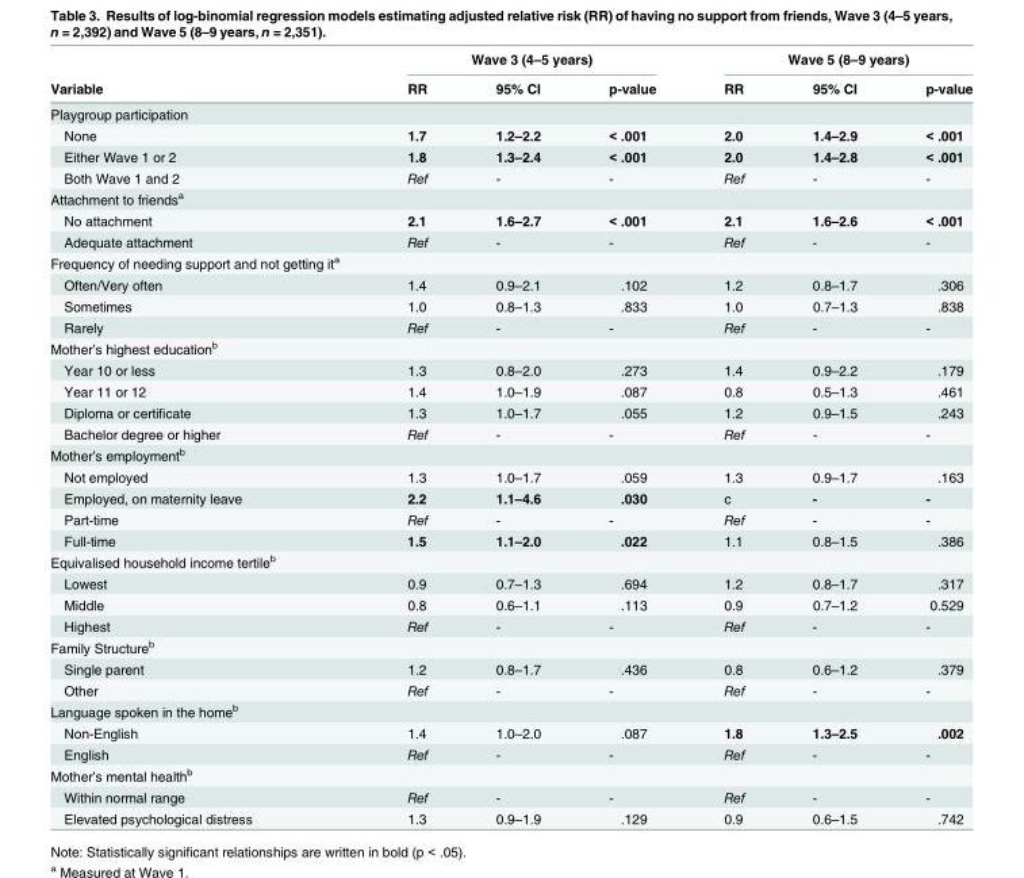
<table><thead><tr><td rowspan="2">Variable</td><td colspan="3">Wave 3 (4–5 years)</td><td colspan="3">Wave 5 (8–9 years)</td></tr><tr><td>RR</td><td>95% CI</td><td>p-value</td><td>RR</td><td>95% CI</td><td>p-value</td></tr></thead><tbody><tr><td colspan="7">Playgroup participation</td></tr><tr><td>None</td><td>1.7</td><td>1.2–2.2</td><td>&lt; .001</td><td>2.0</td><td>1.4–2.9</td><td>&lt; .001</td></tr><tr><td>Either Wave 1 or 2</td><td>1.8</td><td>1.3–2.4</td><td>&lt; .001</td><td>2.0</td><td>1.4–2.8</td><td>&lt; .001</td></tr><tr><td>Both Wave 1 and 2</td><td>Ref</td><td>-</td><td>-</td><td>Ref</td><td>-</td><td>-</td></tr><tr><td colspan="7">Attachment to friends<sup>a</sup></td></tr><tr><td>No attachment</td><td>2.1</td><td>1.6–2.7</td><td>&lt; .001</td><td>2.1</td><td>1.6–2.6</td><td>&lt; .001</td></tr><tr><td>Adequate attachment</td><td>Ref</td><td>-</td><td>-</td><td>Ref</td><td>-</td><td>-</td></tr><tr><td colspan="7">Frequency of needing support and not getting it<sup>a</sup></td></tr><tr><td>Often/Very often</td><td>1.4</td><td>0.9–2.1</td><td>.102</td><td>1.2</td><td>0.8–1.7</td><td>.306</td></tr><tr><td>Sometimes</td><td>1.0</td><td>0.8–1.3</td><td>.833</td><td>1.0</td><td>0.7–1.3</td><td>.838</td></tr><tr><td>Rarely</td><td>Ref</td><td>-</td><td>-</td><td>Ref</td><td>-</td><td>-</td></tr><tr><td colspan="7">Mother’s highest education<sup>b</sup></td></tr><tr><td>Year 10 or less</td><td>1.3</td><td>0.8–2.0</td><td>.273</td><td>1.4</td><td>0.9–2.2</td><td>.179</td></tr><tr><td>Year 11 or 12</td><td>1.4</td><td>1.0–1.9</td><td>.087</td><td>0.8</td><td>0.5–1.3</td><td>.461</td></tr><tr><td>Diploma or certificate</td><td>1.3</td><td>1.0–1.7</td><td>.055</td><td>1.2</td><td>0.9–1.5</td><td>.243</td></tr><tr><td>Bachelor degree or higher</td><td>Ref</td><td>-</td><td>-</td><td>Ref</td><td>-</td><td>-</td></tr><tr><td colspan="7">Mother’s employment<sup>b</sup></td></tr><tr><td>Not employed</td><td>1.3</td><td>1.0–1.7</td><td>.059</td><td>1.3</td><td>0.9–1.7</td><td>.163</td></tr><tr><td>Employed, on maternity leave</td><td>2.2</td><td>1.1–4.6</td><td>.030</td><td>c</td><td>-</td><td>-</td></tr><tr><td>Part-time</td><td>Ref</td><td>-</td><td>-</td><td>Ref</td><td>-</td><td>-</td></tr><tr><td>Full-time</td><td>1.5</td><td>1.1–2.0</td><td>.022</td><td>1.1</td><td>0.8–1.5</td><td>.386</td></tr><tr><td colspan="7">Equivalised household income tertile<sup>b</sup></td></tr><tr><td>Lowest</td><td>0.9</td><td>0.7–1.3</td><td>.694</td><td>1.2</td><td>0.8–1.7</td><td>.317</td></tr><tr><td>Middle</td><td>0.8</td><td>0.6–1.1</td><td>.113</td><td>0.9</td><td>0.7–1.2</td><td>0.529</td></tr><tr><td>Highest</td><td>Ref</td><td>-</td><td>-</td><td>Ref</td><td>-</td><td>-</td></tr><tr><td colspan="7">Family Structure<sup>b</sup></td></tr><tr><td>Single parent</td><td>1.2</td><td>0.8–1.7</td><td>.436</td><td>0.8</td><td>0.6–1.2</td><td>.379</td></tr><tr><td>Other</td><td>Ref</td><td>-</td><td>-</td><td>Ref</td><td>-</td><td>-</td></tr><tr><td colspan="7">Language spoken in the home<sup>b</sup></td></tr><tr><td>Non-English</td><td>1.4</td><td>1.0–2.0</td><td>.087</td><td>1.8</td><td>1.3–2.5</td><td>.002</td></tr><tr><td>English</td><td>Ref</td><td>-</td><td>-</td><td>Ref</td><td>-</td><td>-</td></tr><tr><td colspan="7">Mother’s mental health<sup>b</sup></td></tr><tr><td>Within normal range</td><td>Ref</td><td>-</td><td>-</td><td>Ref</td><td>-</td><td>-</td></tr><tr><td>Elevated psychological distress</td><td>1.3</td><td>0.9–1.9</td><td>.129</td><td>0.9</td><td>0.6–1.5</td><td>.742</td></tr></tbody></table>